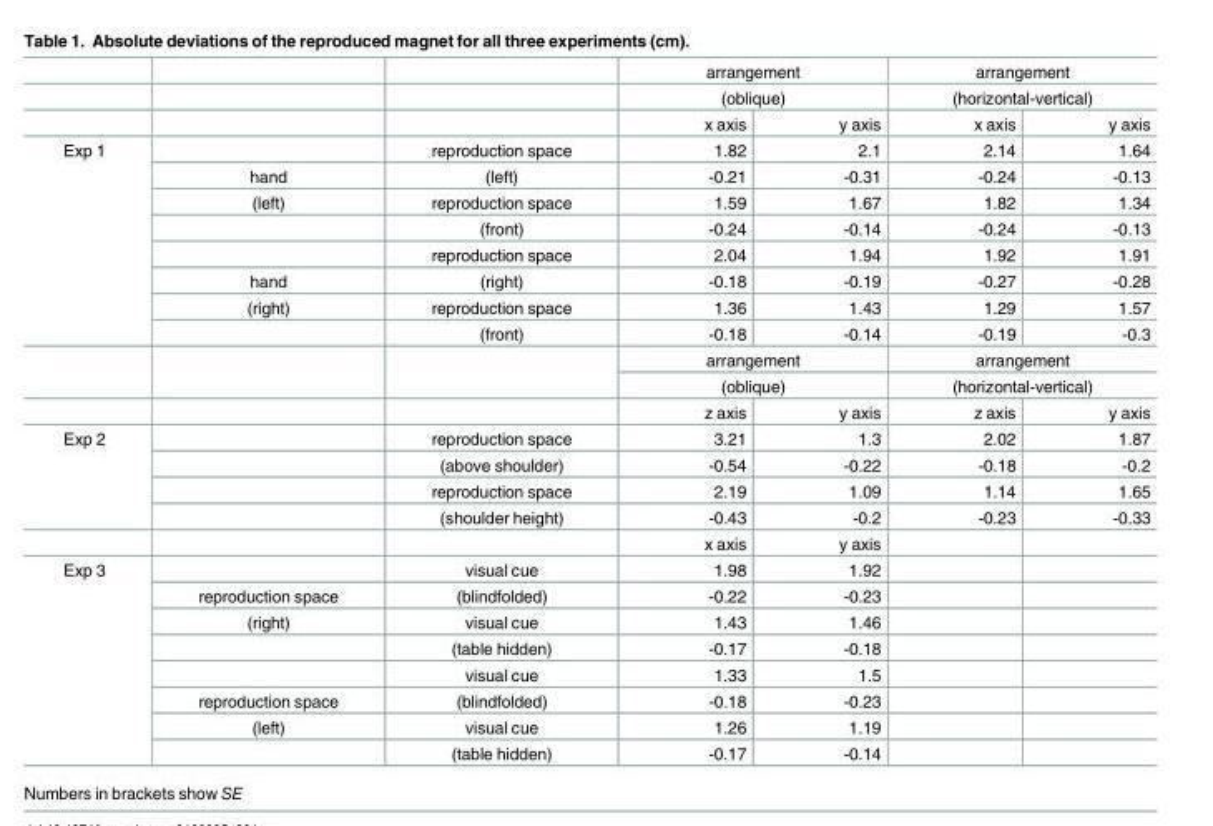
<table><thead><tr><td rowspan="3"></td><td rowspan="3"></td><td rowspan="3"></td><td rowspan="2" colspan="2">arrangement (oblique)</td><td rowspan="2" colspan="2">arrangement (horizontal-vertical)</td></tr><tr></tr><tr><td>x axis</td><td>y axis</td><td>x axis</td><td>y axis</td></tr></thead><tbody><tr><td rowspan="11">Exp 1</td><td></td><td>reproduction space</td><td>1.82</td><td>2.1</td><td>2.14</td><td>1.64</td></tr><tr><td>hand</td><td>(left)</td><td>-0.21</td><td>-0.31</td><td>-0.24</td><td>-0.13</td></tr><tr><td>(left)</td><td>reproduction space</td><td>1.59</td><td>1.67</td><td>1.82</td><td>1.34</td></tr><tr><td></td><td>(front)</td><td>-0.24</td><td>-0.14</td><td>-0.24</td><td>-0.13</td></tr><tr><td></td><td>reproduction space</td><td>2.04</td><td>1.94</td><td>1.92</td><td>1.91</td></tr><tr><td>hand</td><td>(right)</td><td>-0.18</td><td>-0.19</td><td>-0.27</td><td>-0.28</td></tr><tr><td>(right)</td><td>reproduction space</td><td>1.36</td><td>1.43</td><td>1.29</td><td>1.57</td></tr><tr><td></td><td>(front)</td><td>-0.18</td><td>-0.14</td><td>-0.19</td><td>-0.3</td></tr><tr><td rowspan="2"></td><td rowspan="2"></td><td colspan="2">arrangement</td><td colspan="2">arrangement</td></tr><tr><td colspan="2">(oblique)</td><td colspan="2">(horizontal-vertical)</td></tr><tr><td></td><td></td><td>z axis</td><td>y axis</td><td>z axis</td><td>y axis</td></tr><tr><td rowspan="5">Exp 2</td><td></td><td>reproduction space</td><td>3.21</td><td>1.3</td><td>2.02</td><td>1.87</td></tr><tr><td></td><td>(above shoulder)</td><td>-0.54</td><td>-0.22</td><td>-0.18</td><td>-0.2</td></tr><tr><td></td><td>reproduction space</td><td>2.19</td><td>1.09</td><td>1.14</td><td>1.65</td></tr><tr><td></td><td>(shoulder height)</td><td>-0.43</td><td>-0.2</td><td>-0.23</td><td>-0.33</td></tr><tr><td></td><td></td><td>x axis</td><td>y axis</td><td></td><td></td></tr><tr><td rowspan="8">Exp 3</td><td></td><td>visual cue</td><td>1.98</td><td>1.92</td><td></td><td></td></tr><tr><td>reproduction space</td><td>(blindfolded)</td><td>-0.22</td><td>-0.23</td><td></td><td></td></tr><tr><td>(right)</td><td>visual cue</td><td>1.43</td><td>1.46</td><td></td><td></td></tr><tr><td></td><td>(table hidden)</td><td>-0.17</td><td>-0.18</td><td></td><td></td></tr><tr><td></td><td>visual cue</td><td>1.33</td><td>1.5</td><td></td><td></td></tr><tr><td>reproduction space</td><td>(blindfolded)</td><td>-0.18</td><td>-0.23</td><td></td><td></td></tr><tr><td>(left)</td><td>visual cue</td><td>1.26</td><td>1.19</td><td></td><td></td></tr><tr><td></td><td>(table hidden)</td><td>-0.17</td><td>-0.14</td><td></td><td></td></tr></tbody></table>